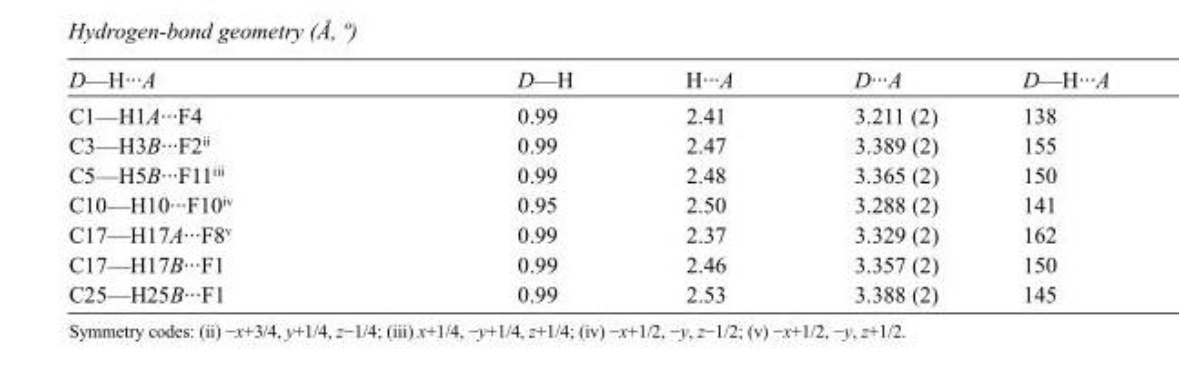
<table><tbody><tr><td>D—H···A</td><td>D—H</td><td>H···A</td><td>D···A</td><td>D—H···A</td></tr><tr><td>C1—H1A···F4</td><td>0.99</td><td>2.41</td><td>3.211 (2)</td><td>138</td></tr><tr><td>C3—H3B···F2<sup>ii</sup></td><td>0.99</td><td>2.47</td><td>3.389 (2)</td><td>155</td></tr><tr><td>C5—H5B···F11<sup>iii</sup></td><td>0.99</td><td>2.48</td><td>3.365 (2)</td><td>150</td></tr><tr><td>C10—H10···F10<sup>iv</sup></td><td>0.95</td><td>2.50</td><td>3.288 (2)</td><td>141</td></tr><tr><td>C17—H17A···F8<sup>v</sup></td><td>0.99</td><td>2.37</td><td>3.329 (2)</td><td>162</td></tr><tr><td>C17—H17B···F1</td><td>0.99</td><td>2.46</td><td>3.357 (2)</td><td>150</td></tr><tr><td>C25—H25B···F1</td><td>0.99</td><td>2.53</td><td>3.388 (2)</td><td>145</td></tr></tbody></table>